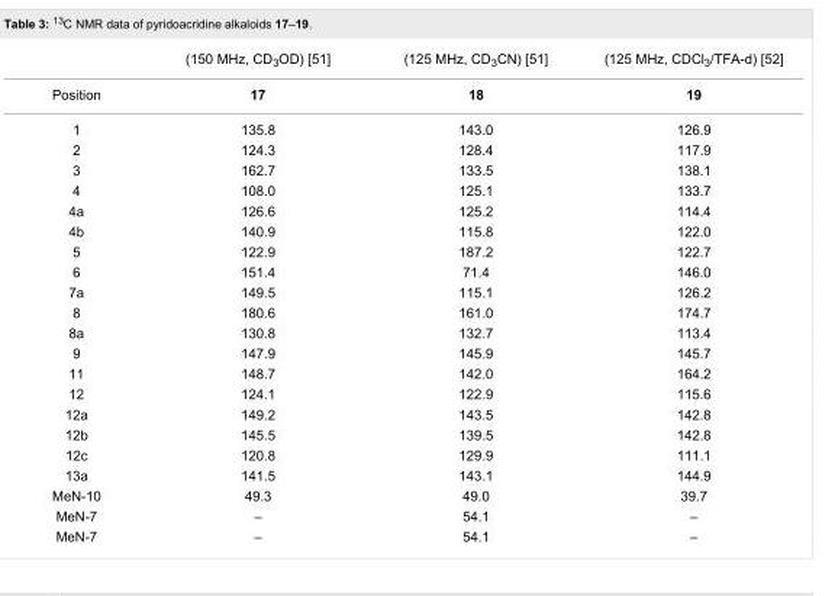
<table><thead><tr><td></td><td>(150 MHz, CD<sub>3</sub>OD) [51]</td><td>(125 MHz, CD<sub>3</sub>CN) [51]</td><td>(125 MHz, CDCl<sub>3</sub>/TFA-d) [52]</td></tr></thead><tbody><tr><td>Position</td><td>17</td><td>18</td><td>19</td></tr><tr><td>1</td><td>135.8</td><td>143.0</td><td>126.9</td></tr><tr><td>2</td><td>124.3</td><td>128.4</td><td>117.9</td></tr><tr><td>3</td><td>162.7</td><td>133.5</td><td>138.1</td></tr><tr><td>4</td><td>108.0</td><td>125.1</td><td>133.7</td></tr><tr><td>4a</td><td>126.6</td><td>125.2</td><td>114.4</td></tr><tr><td>4b</td><td>140.9</td><td>115.8</td><td>122.0</td></tr><tr><td>5</td><td>122.9</td><td>187.2</td><td>122.7</td></tr><tr><td>6</td><td>151.4</td><td>71.4</td><td>146.0</td></tr><tr><td>7a</td><td>149.5</td><td>115.1</td><td>126.2</td></tr><tr><td>8</td><td>180.6</td><td>161.0</td><td>174.7</td></tr><tr><td>8a</td><td>130.8</td><td>132.7</td><td>113.4</td></tr><tr><td>9</td><td>147.9</td><td>145.9</td><td>145.7</td></tr><tr><td>11</td><td>148.7</td><td>142.0</td><td>164.2</td></tr><tr><td>12</td><td>124.1</td><td>122.9</td><td>115.6</td></tr><tr><td>12a</td><td>149.2</td><td>143.5</td><td>142.8</td></tr><tr><td>12b</td><td>145.5</td><td>139.5</td><td>142.8</td></tr><tr><td>12c</td><td>120.8</td><td>129.9</td><td>111.1</td></tr><tr><td>13a</td><td>141.5</td><td>143.1</td><td>144.9</td></tr><tr><td>MeN-10</td><td>49.3</td><td>49.0</td><td>39.7</td></tr><tr><td>MeN-7</td><td>–</td><td>54.1</td><td>–</td></tr><tr><td>MeN-7</td><td>–</td><td>54.1</td><td>–</td></tr></tbody></table>